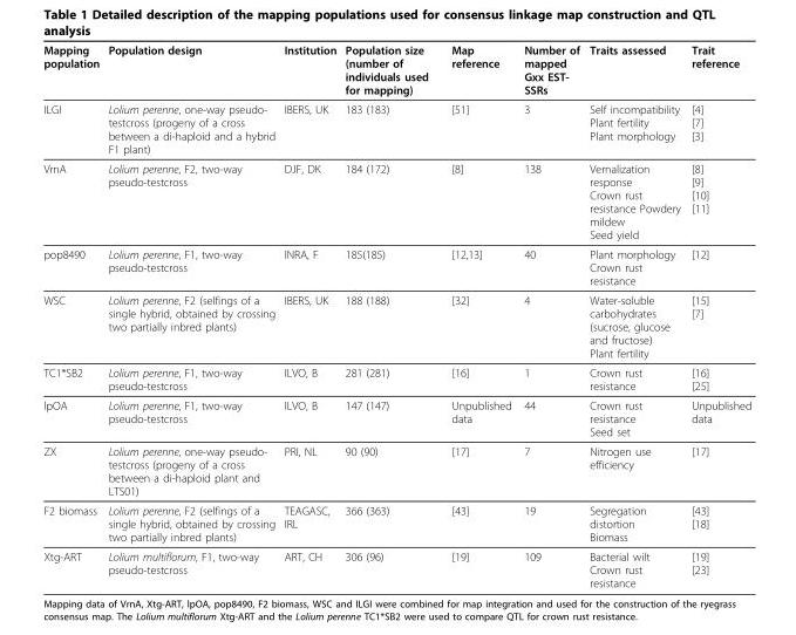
<table><thead><tr><td>Mapping population</td><td>Population design</td><td>Institution</td><td>Population size (number of individuals used for mapping)</td><td>Map reference</td><td>Number of mapped Gxx EST- SSRs</td><td>Traits assessed</td><td>Trait reference</td></tr></thead><tbody><tr><td>ILGI</td><td>Lolium perenne, one-way pseudo- testcross (progeny of a cross between a di-haploid and a hybrid F1 plant)</td><td>IBERS, UK</td><td>183 (183)</td><td>[51]</td><td>3</td><td>Self incompatibility Plant fertility Plant morphology</td><td>[4] [7] [3]</td></tr><tr><td>VrnA</td><td>Lolium perenne, F2, two-way pseudo-testcross</td><td>DJF, DK</td><td>184 (172)</td><td>[8]</td><td>138</td><td>Vernalization response Crown rust resistance Powdery mildew Seed yield</td><td>[8] [9] [10] [11]</td></tr><tr><td>pop8490</td><td>Lolium perenne, F1, two-way pseudo-testcross</td><td>INRA, F</td><td>185(185)</td><td>[12,13]</td><td>40</td><td>Plant morphology Crown rust resistance</td><td>[12]</td></tr><tr><td>WSC</td><td>Lolium perenne, F2 (selfings of a single hybrid, obtained by crossing two partially inbred plants)</td><td>IBERS, UK</td><td>188 (188)</td><td>[32]</td><td>4</td><td>Water-soluble carbohydrates (sucrose, glucose and fructose) Plant fertility</td><td>[15] [7]</td></tr><tr><td>TC1*SB2</td><td>Lolium perenne, F1, two-way pseudo-testcross</td><td>ILVO, B</td><td>281 (281)</td><td>[16]</td><td>1</td><td>Crown rust resistance</td><td>[16] [25]</td></tr><tr><td>lpOA</td><td>Lolium perenne, F1, two-way pseudo-testcross</td><td>ILVO, B</td><td>147 (147)</td><td>Unpublished data</td><td>44</td><td>Crown rust resistance Seed set</td><td>Unpublished data</td></tr><tr><td>ZX</td><td>Lolium perenne, one-way pseudo- testcross (progeny of a cross between a di-haploid plant and LTS01)</td><td>PRI, NL</td><td>90 (90)</td><td>[17]</td><td>7</td><td>Nitrogen use efficiency</td><td>[17]</td></tr><tr><td>F2 biomass</td><td>Lolium perenne, F2 (selfings of a single hybrid, obtained by crossing two partially inbred plants)</td><td>TEAGASC, IRL</td><td>366 (363)</td><td>[43]</td><td>19</td><td>Segregation distortion Biomass</td><td>[43] [18]</td></tr><tr><td>Xtg-ART</td><td>Lolium multiflorum, F1, two-way pseudo-testcross</td><td>ART, CH</td><td>306 (96)</td><td>[19]</td><td>109</td><td>Bacterial wilt Crown rust resistance</td><td>[19] [23]</td></tr></tbody></table>